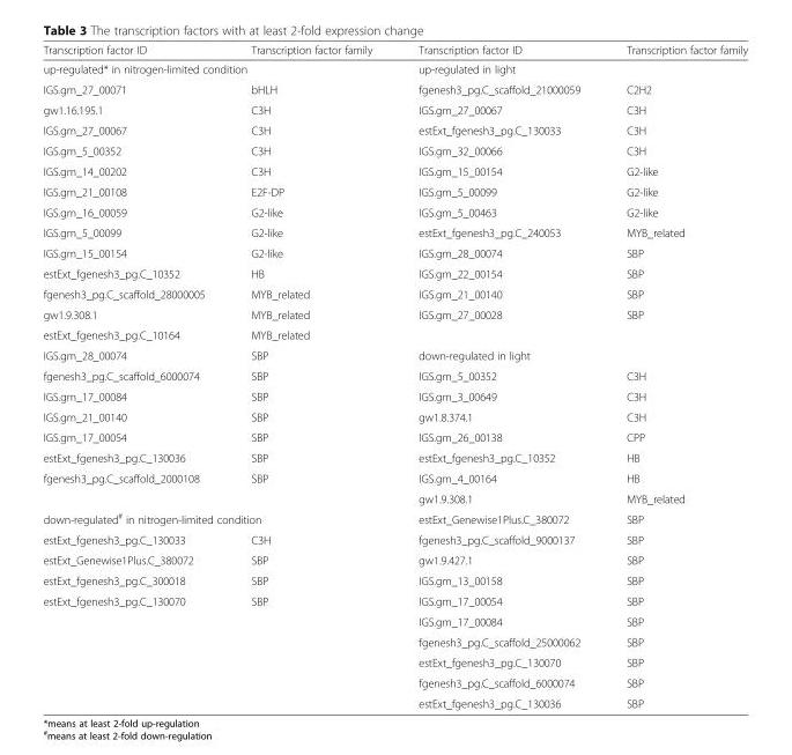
<table><thead><tr><td>Transcription factor ID</td><td>Transcription factor family</td><td>Transcription factor ID</td><td>Transcription factor family</td></tr></thead><tbody><tr><td colspan="2">up-regulated* in nitrogen-limited condition</td><td colspan="2">up-regulated in light</td></tr><tr><td>IGS.gm_27_00071</td><td>bHLH</td><td>fgenesh3_pg.C_scaffold_21000059</td><td>C2H2</td></tr><tr><td>gw1.16.195.1</td><td>C3H</td><td>IGS.gm_27_00067</td><td>C3H</td></tr><tr><td>IGS.gm_27_00067</td><td>C3H</td><td>estExt_fgenesh3_pg.C_130033</td><td>C3H</td></tr><tr><td>IGS.gm_5_00352</td><td>C3H</td><td>IGS.gm_32_00066</td><td>C3H</td></tr><tr><td>IGS.gm_14_00202</td><td>C3H</td><td>IGS.gm_15_00154</td><td>G2-like</td></tr><tr><td>IGS.gm_21_00108</td><td>E2F-DP</td><td>IGS.gm_5_00099</td><td>G2-like</td></tr><tr><td>IGS.gm_16_00059</td><td>G2-like</td><td>IGS.gm_5_00463</td><td>G2-like</td></tr><tr><td>IGS.gm_5_00099</td><td>G2-like</td><td>estExt_fgenesh3_pg.C_240053</td><td>MYB_related</td></tr><tr><td>IGS.gm_15_00154</td><td>G2-like</td><td>IGS.gm_28_00074</td><td>SBP</td></tr><tr><td>estExt_fgenesh3_pg.C_10352</td><td>HB</td><td>IGS.gm_22_00154</td><td>SBP</td></tr><tr><td>fgenesh3_pg.C_scaffold_28000005</td><td>MYB_related</td><td>IGS.gm_21_00140</td><td>SBP</td></tr><tr><td>gw1.9.308.1</td><td>MYB_related</td><td>IGS.gm_27_00028</td><td>SBP</td></tr><tr><td>estExt_fgenesh3_pg.C_10164</td><td>MYB_related</td><td colspan="2"></td></tr><tr><td>IGS.gm_28_00074</td><td>SBP</td><td colspan="2">down-regulated in light</td></tr><tr><td>fgenesh3_pg.C_scaffold_6000074</td><td>SBP</td><td>IGS.gm_5_00352</td><td>C3H</td></tr><tr><td>IGS.gm_17_00084</td><td>SBP</td><td>IGS.gm_3_00649</td><td>C3H</td></tr><tr><td>IGS.gm_21_00140</td><td>SBP</td><td>gw1.8.374.1</td><td>C3H</td></tr><tr><td>IGS.gm_17_00054</td><td>SBP</td><td>IGS.gm_26_00138</td><td>CPP</td></tr><tr><td>estExt_fgenesh3_pg.C_130036</td><td>SBP</td><td>estExt_fgenesh3_pg.C_10352</td><td>HB</td></tr><tr><td rowspan="2">fgenesh3_pg.C_scaffold_2000108</td><td>SBP</td><td>IGS.gm_4_00164</td><td>HB</td></tr><tr><td></td><td>gw1.9.308.1</td><td>MYB_related</td></tr><tr><td colspan="2">down-regulated<sup>#</sup> in nitrogen-limited condition</td><td>estExt_Genewise1Plus.C_380072</td><td>SBP</td></tr><tr><td>estExt_fgenesh3_pg.C_130033</td><td>C3H</td><td>fgenesh3_pg.C_scaffold_9000137</td><td>SBP</td></tr><tr><td>estExt_Genewise1Plus.C_380072</td><td>SBP</td><td>gw1.9.427.1</td><td>SBP</td></tr><tr><td>estExt_fgenesh3_pg.C_300018</td><td>SBP</td><td>IGS.gm_13_00158</td><td>SBP</td></tr><tr><td rowspan="6">estExt_fgenesh3_pg.C_130070</td><td>SBP</td><td>IGS.gm_17_00054</td><td>SBP</td></tr><tr><td></td><td>IGS.gm_17_00084</td><td>SBP</td></tr><tr><td></td><td>fgenesh3_pg.C_scaffold_25000062</td><td>SBP</td></tr><tr><td></td><td>estExt_fgenesh3_pg.C_130070</td><td>SBP</td></tr><tr><td></td><td>fgenesh3_pg.C_scaffold_6000074</td><td>SBP</td></tr><tr><td></td><td>estExt_fgenesh3_pg.C_130036</td><td>SBP</td></tr></tbody></table>